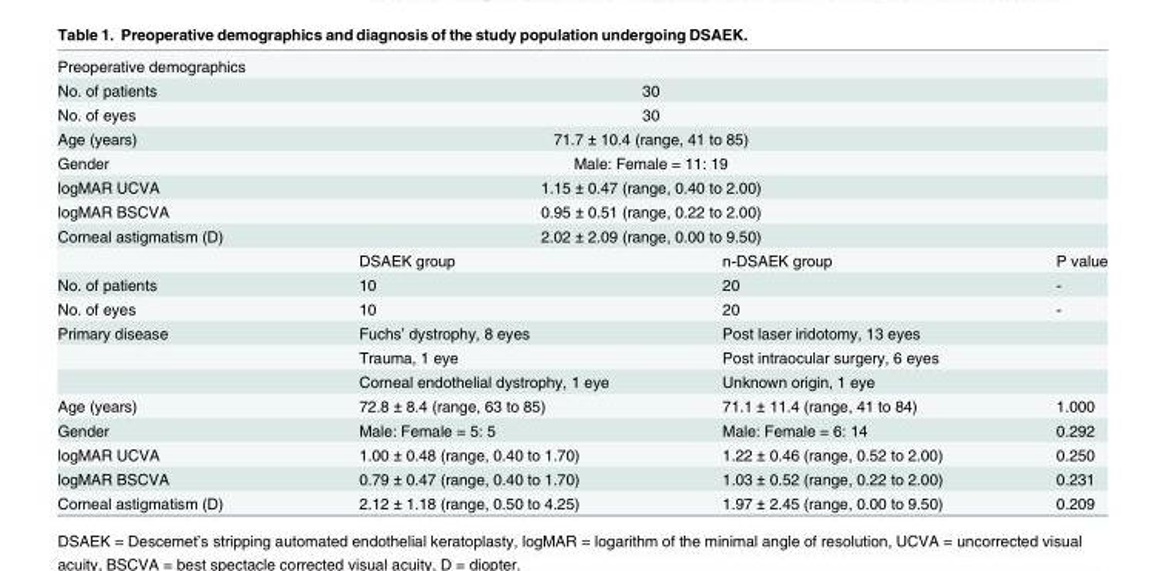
<table><tbody><tr><td colspan="4">Preoperative demographics</td></tr><tr><td>No. of patients</td><td colspan="2">30</td><td></td></tr><tr><td>No. of eyes</td><td colspan="2">30</td><td></td></tr><tr><td>Age (years)</td><td colspan="2">71.7 ± 10.4 (range, 41 to 85)</td><td></td></tr><tr><td>Gender</td><td colspan="2">Male: Female = 11: 19</td><td></td></tr><tr><td>logMAR UCVA</td><td colspan="2">1.15 ± 0.47 (range, 0.40 to 2.00)</td><td></td></tr><tr><td>logMAR BSCVA</td><td colspan="2">0.95 ± 0.51 (range, 0.22 to 2.00)</td><td></td></tr><tr><td rowspan="2">Corneal astigmatism (D)</td><td colspan="2">2.02 ± 2.09 (range, 0.00 to 9.50)</td><td></td></tr><tr><td>DSAEK group</td><td>n-DSAEK group</td><td>P value</td></tr><tr><td>No. of patients</td><td>10</td><td>20</td><td>-</td></tr><tr><td>No. of eyes</td><td>10</td><td>20</td><td>-</td></tr><tr><td rowspan="3">Primary disease</td><td>Fuchs’ dystrophy, 8 eyes</td><td>Post laser iridotomy, 13 eyes</td><td></td></tr><tr><td>Trauma, 1 eye</td><td>Post intraocular surgery, 6 eyes</td><td></td></tr><tr><td>Corneal endothelial dystrophy, 1 eye</td><td>Unknown origin, 1 eye</td><td></td></tr><tr><td>Age (years)</td><td>72.8 ± 8.4 (range, 63 to 85)</td><td>71.1 ± 11.4 (range, 41 to 84)</td><td>1.000</td></tr><tr><td>Gender</td><td>Male: Female = 5: 5</td><td>Male: Female = 6: 14</td><td>0.292</td></tr><tr><td>logMAR UCVA</td><td>1.00 ± 0.48 (range, 0.40 to 1.70)</td><td>1.22 ± 0.46 (range, 0.52 to 2.00)</td><td>0.250</td></tr><tr><td>logMAR BSCVA</td><td>0.79 ± 0.47 (range, 0.40 to 1.70)</td><td>1.03 ± 0.52 (range, 0.22 to 2.00)</td><td>0.231</td></tr><tr><td>Corneal astigmatism (D)</td><td>2.12 ± 1.18 (range, 0.50 to 4.25)</td><td>1.97 ± 2.45 (range, 0.00 to 9.50)</td><td>0.209</td></tr></tbody></table>